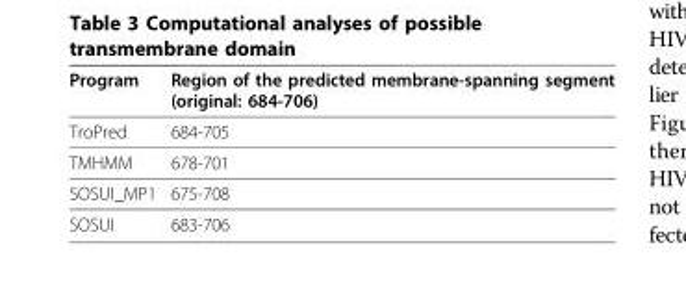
<table><thead><tr><td>Program</td><td>Region of the predicted membrane-spanning segment (original: 684-706)</td></tr></thead><tbody><tr><td>TroPred</td><td>684-705</td></tr><tr><td>TMHMM</td><td>678-701</td></tr><tr><td>SOSUI_MP1</td><td>675-708</td></tr><tr><td>SOSUI</td><td>683-706</td></tr></tbody></table>